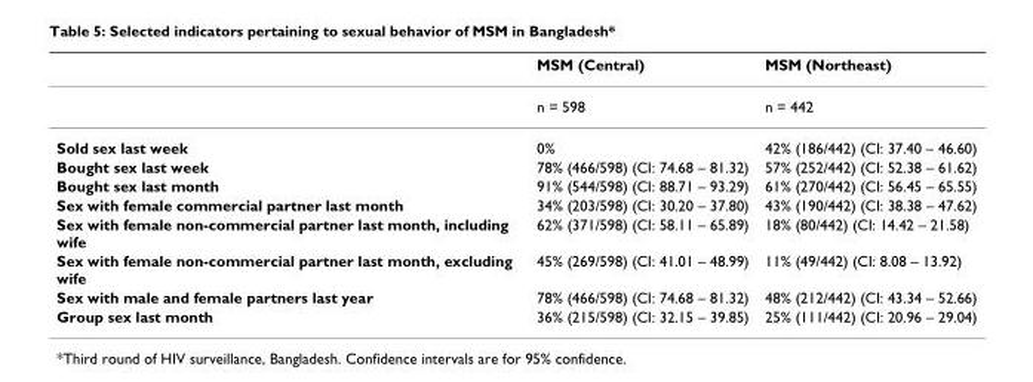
<table><thead><tr><td></td><td>MSM (Central)</td><td>MSM (Northeast)</td></tr></thead><tbody><tr><td></td><td>n = 598</td><td>n = 442</td></tr><tr><td>Sold sex last week</td><td>0%</td><td>42% (186/442) (CI: 37.40 – 46.60)</td></tr><tr><td>Bought sex last week</td><td>78% (466/598) (CI: 74.68 – 81.32)</td><td>57% (252/442) (CI: 52.38 – 61.62)</td></tr><tr><td>Bought sex last month</td><td>91% (544/598) (CI: 88.71 – 93.29)</td><td>61% (270/442) (CI: 56.45 – 65.55)</td></tr><tr><td>Sex with female commercial partner last month</td><td>34% (203/598) (CI: 30.20 – 37.80)</td><td>43% (190/442) (CI: 38.38 – 47.62)</td></tr><tr><td>Sex with female non-commercial partner last month, including wife</td><td>62% (371/598) (CI: 58.11 – 65.89)</td><td>18% (80/442) (CI: 14.42 – 21.58)</td></tr><tr><td>Sex with female non-commercial partner last month, excluding wife</td><td>45% (269/598) (CI: 41.01 – 48.99)</td><td>11% (49/442) (CI: 8.08 – 13.92)</td></tr><tr><td>Sex with male and female partners last year</td><td>78% (466/598) (CI: 74.68 – 81.32)</td><td>48% (212/442) (CI: 43.34 – 52.66)</td></tr><tr><td>Group sex last month</td><td>36% (215/598) (CI: 32.15 – 39.85)</td><td>25% (111/442) (CI: 20.96 – 29.04)</td></tr></tbody></table>